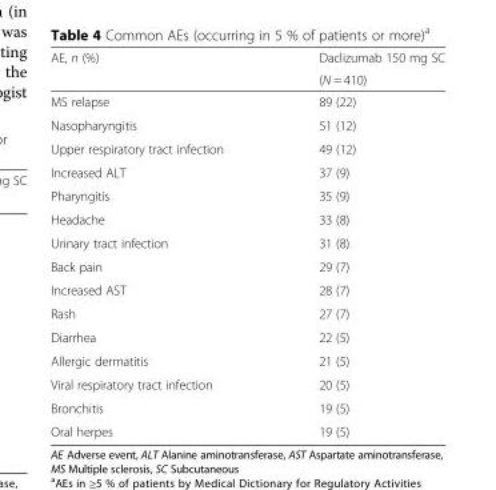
<table><thead><tr><td rowspan="2">AE, n (%)</td><td rowspan="2">Daclizumab 150 mg SC (N = 410)</td></tr><tr></tr></thead><tbody><tr><td>MS relapse</td><td>89 (22)</td></tr><tr><td>Nasopharyngitis</td><td>51 (12)</td></tr><tr><td>Upper respiratory tract infection</td><td>49 (12)</td></tr><tr><td>Increased ALT</td><td>37 (9)</td></tr><tr><td>Pharyngitis</td><td>35 (9)</td></tr><tr><td>Headache</td><td>33 (8)</td></tr><tr><td>Urinary tract infection</td><td>31 (8)</td></tr><tr><td>Back pain</td><td>29 (7)</td></tr><tr><td>Increased AST</td><td>28 (7)</td></tr><tr><td>Rash</td><td>27 (7)</td></tr><tr><td>Diarrhea</td><td>22 (5)</td></tr><tr><td>Allergic dermatitis</td><td>21 (5)</td></tr><tr><td>Viral respiratory tract infection</td><td>20 (5)</td></tr><tr><td>Bronchitis</td><td>19 (5)</td></tr><tr><td>Oral herpes</td><td>19 (5)</td></tr></tbody></table>